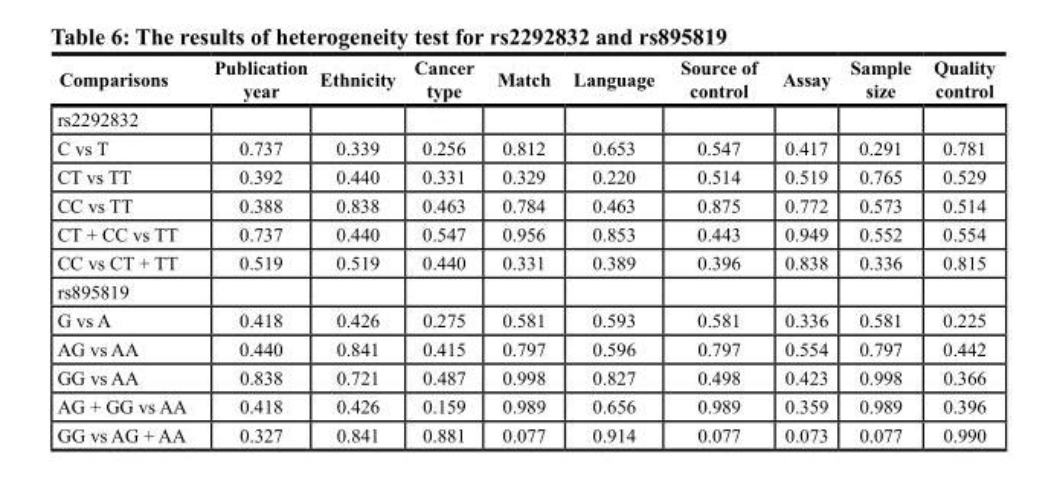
<table><thead><tr><td>Comparisons</td><td>Publication year</td><td>Ethnicity</td><td>Cancer type</td><td>Match</td><td>Language</td><td>Source of control</td><td>Assay</td><td>Sample size</td><td>Quality control</td></tr></thead><tbody><tr><td colspan="10">rs2292832</td></tr><tr><td>C vs T</td><td>0.737</td><td>0.339</td><td>0.256</td><td>0.812</td><td>0.653</td><td>0.547</td><td>0.417</td><td>0.291</td><td>0.781</td></tr><tr><td>CT vs TT</td><td>0.392</td><td>0.440</td><td>0.331</td><td>0.329</td><td>0.220</td><td>0.514</td><td>0.519</td><td>0.765</td><td>0.529</td></tr><tr><td>CC vs TT</td><td>0.388</td><td>0.838</td><td>0.463</td><td>0.784</td><td>0.463</td><td>0.875</td><td>0.772</td><td>0.573</td><td>0.514</td></tr><tr><td>CT + CC vs TT</td><td>0.737</td><td>0.440</td><td>0.547</td><td>0.956</td><td>0.853</td><td>0.443</td><td>0.949</td><td>0.552</td><td>0.554</td></tr><tr><td>CC vs CT + TT</td><td>0.519</td><td>0.519</td><td>0.440</td><td>0.331</td><td>0.389</td><td>0.396</td><td>0.838</td><td>0.336</td><td>0.815</td></tr><tr><td colspan="10">rs895819</td></tr><tr><td>G vs A</td><td>0.418</td><td>0.426</td><td>0.275</td><td>0.581</td><td>0.593</td><td>0.581</td><td>0.336</td><td>0.581</td><td>0.225</td></tr><tr><td>AG vs AA</td><td>0.440</td><td>0.841</td><td>0.415</td><td>0.797</td><td>0.596</td><td>0.797</td><td>0.554</td><td>0.797</td><td>0.442</td></tr><tr><td>GG vs AA</td><td>0.838</td><td>0.721</td><td>0.487</td><td>0.998</td><td>0.827</td><td>0.498</td><td>0.423</td><td>0.998</td><td>0.366</td></tr><tr><td>AG + GG vs AA</td><td>0.418</td><td>0.426</td><td>0.159</td><td>0.989</td><td>0.656</td><td>0.989</td><td>0.359</td><td>0.989</td><td>0.396</td></tr><tr><td>GG vs AG + AA</td><td>0.327</td><td>0.841</td><td>0.881</td><td>0.077</td><td>0.914</td><td>0.077</td><td>0.073</td><td>0.077</td><td>0.990</td></tr></tbody></table>